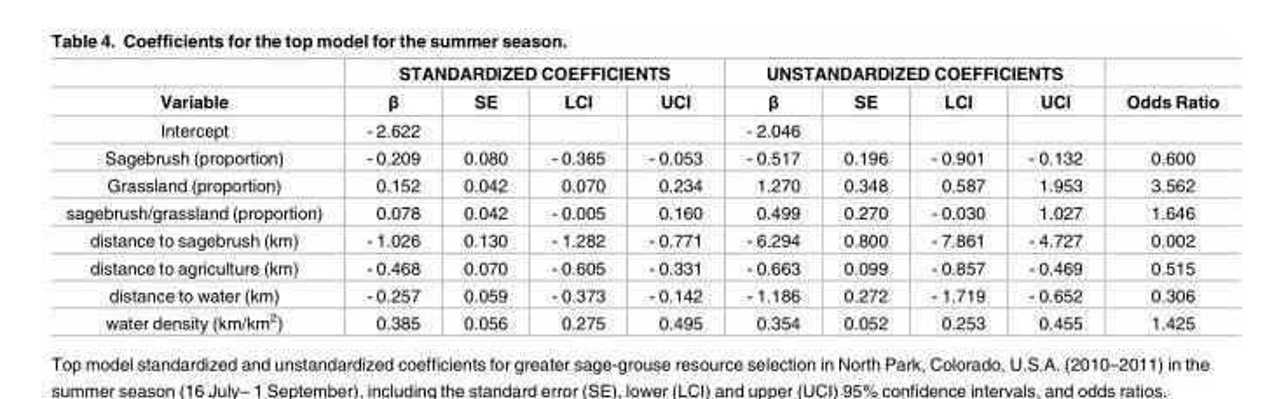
<table><thead><tr><td rowspan="2">Variable</td><td colspan="4">STANDARDIZED COEFFICIENTS</td><td colspan="4">UNSTANDARDIZED COEFFICIENTS</td><td rowspan="2">Odds Ratio</td></tr><tr><td>β</td><td>SE</td><td>LCI</td><td>UCI</td><td>β</td><td>SE</td><td>LCI</td><td>UCI</td></tr></thead><tbody><tr><td>Intercept</td><td>- 2.622</td><td></td><td></td><td></td><td>- 2.046</td><td></td><td></td><td></td><td></td></tr><tr><td>Sagebrush (proportion)</td><td>- 0.209</td><td>0.080</td><td>- 0.365</td><td>- 0.053</td><td>- 0.517</td><td>0.196</td><td>- 0.901</td><td>- 0.132</td><td>0.600</td></tr><tr><td>Grassland (proportion)</td><td>0.152</td><td>0.042</td><td>0.070</td><td>0.234</td><td>1.270</td><td>0.348</td><td>0.587</td><td>1.953</td><td>3.562</td></tr><tr><td>sagebrush/grassland (proportion)</td><td>0.078</td><td>0.042</td><td>- 0.005</td><td>0.160</td><td>0.499</td><td>0.270</td><td>- 0.030</td><td>1.027</td><td>1.646</td></tr><tr><td>distance to sagebrush (km)</td><td>- 1.026</td><td>0.130</td><td>- 1.282</td><td>- 0.771</td><td>- 6.294</td><td>0.800</td><td>- 7.861</td><td>- 4.727</td><td>0.002</td></tr><tr><td>distance to agriculture (km)</td><td>- 0.468</td><td>0.070</td><td>- 0.605</td><td>- 0.331</td><td>- 0.663</td><td>0.099</td><td>- 0.857</td><td>- 0.469</td><td>0.515</td></tr><tr><td>distance to water (km)</td><td>- 0.257</td><td>0.059</td><td>- 0.373</td><td>- 0.142</td><td>- 1.186</td><td>0.272</td><td>- 1.719</td><td>- 0.652</td><td>0.306</td></tr><tr><td>water density (km/km<sup>2</sup>)</td><td>0.385</td><td>0.056</td><td>0.275</td><td>0.495</td><td>0.354</td><td>0.052</td><td>0.253</td><td>0.455</td><td>1.425</td></tr></tbody></table>